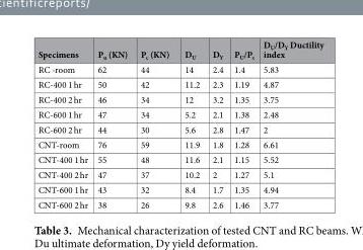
<table><thead><tr><td>Specimens</td><td>P<sub>u</sub> (KN)</td><td>P<sub>c</sub> (KN)</td><td>D<sub>U</sub></td><td>D<sub>Y</sub></td><td>P<sub>U</sub>/P<sub>c</sub></td><td>D<sub>U</sub>/D<sub>Y</sub> Ductility index</td></tr></thead><tbody><tr><td>RC -room</td><td>62</td><td>44</td><td>14</td><td>2.4</td><td>1.4</td><td>5.83</td></tr><tr><td>RC-400 1 hr</td><td>50</td><td>42</td><td>11.2</td><td>2.3</td><td>1.19</td><td>4.87</td></tr><tr><td>RC-400 2 hr</td><td>46</td><td>34</td><td>12</td><td>3.2</td><td>1.35</td><td>3.75</td></tr><tr><td>RC-600 1 hr</td><td>47</td><td>34</td><td>5.2</td><td>2.1</td><td>1.38</td><td>2.48</td></tr><tr><td>RC-600 2 hr</td><td>44</td><td>30</td><td>5.6</td><td>2.8</td><td>1.47</td><td>2</td></tr><tr><td>CNT-room</td><td>76</td><td>59</td><td>11.9</td><td>1.8</td><td>1.28</td><td>6.61</td></tr><tr><td>CNT-400 1 hr</td><td>55</td><td>48</td><td>11.6</td><td>2.1</td><td>1.15</td><td>5.52</td></tr><tr><td>CNT-400 2 hr</td><td>47</td><td>37</td><td>10.2</td><td>2</td><td>1.27</td><td>5.1</td></tr><tr><td>CNT-600 1 hr</td><td>43</td><td>32</td><td>8.4</td><td>1.7</td><td>1.35</td><td>4.94</td></tr><tr><td>CNT-600 2 hr</td><td>38</td><td>26</td><td>9.8</td><td>2.6</td><td>1.46</td><td>3.77</td></tr></tbody></table>